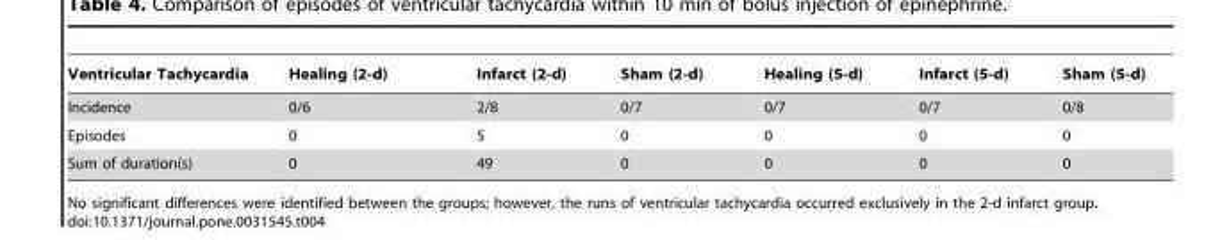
<table><thead><tr><td>Ventricular Tachycardia</td><td>Healing (2-d)</td><td>Infarct (2-d)</td><td>Sham (2-d)</td><td>Healing (5-d)</td><td>Infarct (5-d)</td><td>Sham (5-d)</td></tr></thead><tbody><tr><td>Incidence</td><td>0/6</td><td>2/8</td><td>0/7</td><td>0/7</td><td>0/7</td><td>0/8</td></tr><tr><td>Episodes</td><td>0</td><td>5</td><td>0</td><td>0</td><td>0</td><td>0</td></tr><tr><td>Sum of duration(s)</td><td>0</td><td>49</td><td>0</td><td>0</td><td>0</td><td>0</td></tr></tbody></table>